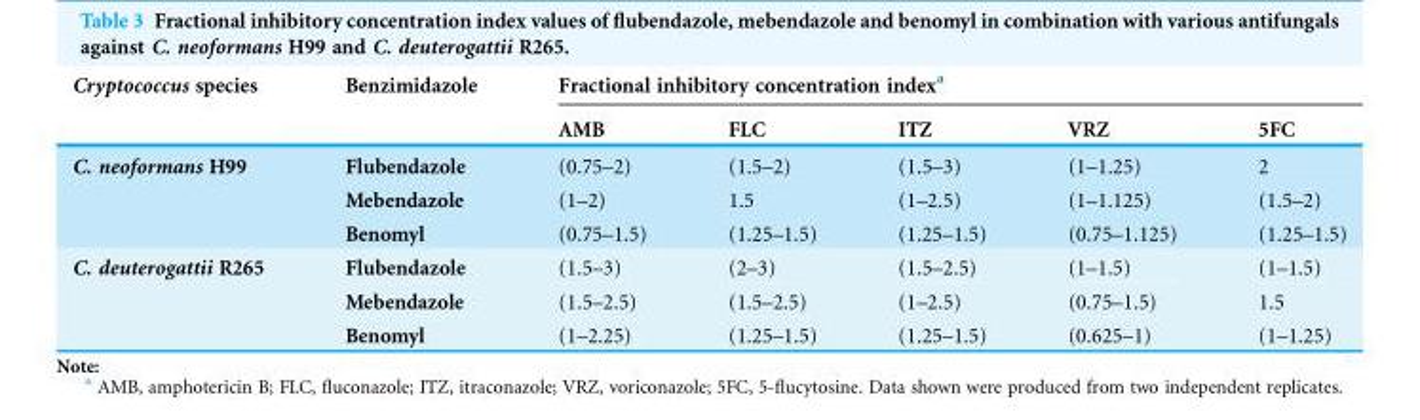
<table><thead><tr><td rowspan="2">Cryptococcus species</td><td rowspan="2">Benzimidazole</td><td colspan="5">Fractional inhibitory concentration index<sup>a</sup></td></tr><tr><td>AMB</td><td>FLC</td><td>ITZ</td><td>VRZ</td><td>5FC</td></tr></thead><tbody><tr><td rowspan="3">C. neoformans H99</td><td>Flubendazole</td><td>(0.75–2)</td><td>(1.5–2)</td><td>(1.5–3)</td><td>(1–1.25)</td><td>2</td></tr><tr><td>Mebendazole</td><td>(1–2)</td><td>1.5</td><td>(1–2.5)</td><td>(1–1.125)</td><td>(1.5–2)</td></tr><tr><td>Benomyl</td><td>(0.75–1.5)</td><td>(1.25–1.5)</td><td>(1.25–1.5)</td><td>(0.75–1.125)</td><td>(1.25–1.5)</td></tr><tr><td rowspan="3">C. deuterogattii R265</td><td>Flubendazole</td><td>(1.5–3)</td><td>(2–3)</td><td>(1.5–2.5)</td><td>(1–1.5)</td><td>(1–1.5)</td></tr><tr><td>Mebendazole</td><td>(1.5–2.5)</td><td>(1.5–2.5)</td><td>(1–2.5)</td><td>(0.75–1.5)</td><td>1.5</td></tr><tr><td>Benomyl</td><td>(1–2.25)</td><td>(1.25–1.5)</td><td>(1.25–1.5)</td><td>(0.625–1)</td><td>(1–1.25)</td></tr></tbody></table>